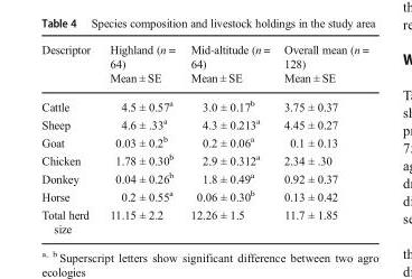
<table><thead><tr><td rowspan="2">Descriptor</td><td rowspan="2">Highland (n = 64) Mean ± SE</td><td rowspan="2">Mid-altitude (n = 64) Mean ± SE</td><td rowspan="2">Overall mean (n = 128) Mean ± SE</td></tr><tr></tr></thead><tbody><tr><td>Cattle</td><td>4.5 ± 0.57<sup>a</sup></td><td>3.0 ± 0.17<sup>b</sup></td><td>3.75 ± 0.37</td></tr><tr><td>Sheep</td><td>4.6 ± .33<sup>a</sup></td><td>4.3 ± 0.213<sup>a</sup></td><td>4.45 ± 0.27</td></tr><tr><td>Goat</td><td>0.03 ± 0.2<sup>b</sup></td><td>0.2 ± 0.06<sup>a</sup></td><td>0.1 ± 0.13</td></tr><tr><td>Chicken</td><td>1.78 ± 0.30<sup>b</sup></td><td>2.9 ± 0.312<sup>a</sup></td><td>2.34 ± .30</td></tr><tr><td>Donkey</td><td>0.04 ± 0.26<sup>b</sup></td><td>1.8 ± 0.49<sup>a</sup></td><td>0.92 ± 0.37</td></tr><tr><td>Horse</td><td>0.2 ± 0.55<sup>a</sup></td><td>0.06 ± 0.30<sup>b</sup></td><td>0.13 ± 0.42</td></tr><tr><td>Total herd size</td><td>11.15 ± 2.2</td><td>12.26 ± 1.5</td><td>11.7 ± 1.85</td></tr></tbody></table>